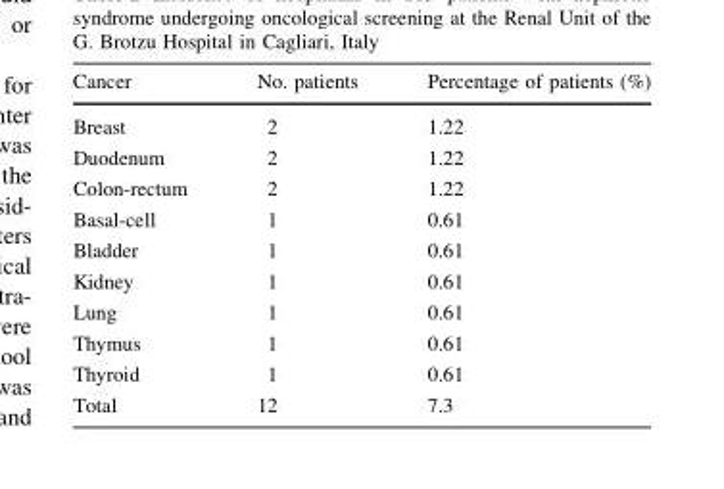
<table><thead><tr><td>Cancer</td><td>No. patients</td><td>Percentage of patients (%)</td></tr></thead><tbody><tr><td>Breast</td><td>2</td><td>1.22</td></tr><tr><td>Duodenum</td><td>2</td><td>1.22</td></tr><tr><td>Colon-rectum</td><td>2</td><td>1.22</td></tr><tr><td>Basal-cell</td><td>1</td><td>0.61</td></tr><tr><td>Bladder</td><td>1</td><td>0.61</td></tr><tr><td>Kidney</td><td>1</td><td>0.61</td></tr><tr><td>Lung</td><td>1</td><td>0.61</td></tr><tr><td>Thymus</td><td>1</td><td>0.61</td></tr><tr><td>Thyroid</td><td>1</td><td>0.61</td></tr><tr><td>Total</td><td>12</td><td>7.3</td></tr></tbody></table>